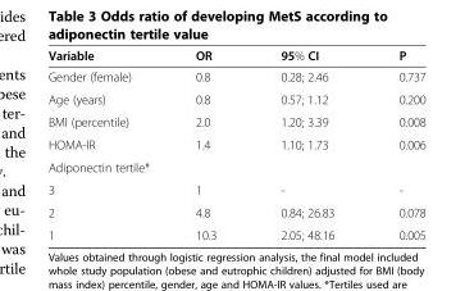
<table><thead><tr><td>Variable</td><td>OR</td><td>95% CI</td><td>P</td></tr></thead><tbody><tr><td>Gender (female)</td><td>0.8</td><td>0.28; 2.46</td><td>0.737</td></tr><tr><td>Age (years)</td><td>0.8</td><td>0.57; 1.12</td><td>0.200</td></tr><tr><td>BMI (percentile)</td><td>2.0</td><td>1.20; 3.39</td><td>0.008</td></tr><tr><td>HOMA-IR</td><td>1.4</td><td>1.10; 1.73</td><td>0.006</td></tr><tr><td colspan="4">Adiponectin tertile*</td></tr><tr><td>3</td><td>1</td><td>-</td><td>-</td></tr><tr><td>2</td><td>4.8</td><td>0.84; 26.83</td><td>0.078</td></tr><tr><td>1</td><td>10.3</td><td>2.05; 48.16</td><td>0.005</td></tr></tbody></table>